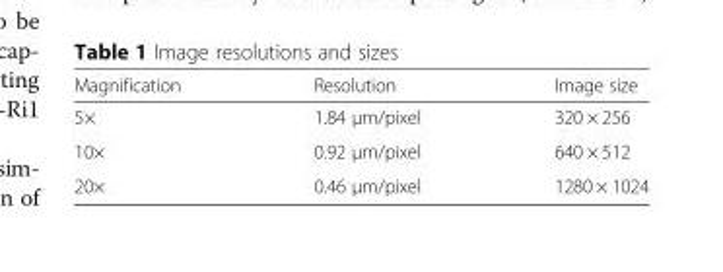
<table><thead><tr><td>Magnification</td><td>Resolution</td><td>Image size</td></tr></thead><tbody><tr><td>5×</td><td>1.84 μm/pixel</td><td>320 × 256</td></tr><tr><td>10×</td><td>0.92 μm/pixel</td><td>640 × 512</td></tr><tr><td>20×</td><td>0.46 μm/pixel</td><td>1280 × 1024</td></tr></tbody></table>